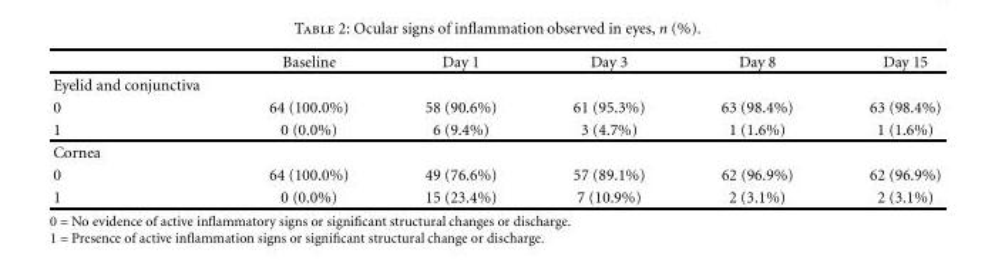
<table><thead><tr><td></td><td>Baseline</td><td>Day 1</td><td>Day 3</td><td>Day 8</td><td>Day 15</td></tr></thead><tbody><tr><td colspan="6">Eyelid and conjunctiva</td></tr><tr><td>0</td><td>64 (100.0%)</td><td>58 (90.6%)</td><td>61 (95.3%)</td><td>63 (98.4%)</td><td>63 (98.4%)</td></tr><tr><td>1</td><td>0 (0.0%)</td><td>6 (9.4%)</td><td>3 (4.7%)</td><td>1 (1.6%)</td><td>1 (1.6%)</td></tr><tr><td colspan="6">Cornea</td></tr><tr><td>0</td><td>64 (100.0%)</td><td>49 (76.6%)</td><td>57 (89.1%)</td><td>62 (96.9%)</td><td>62 (96.9%)</td></tr><tr><td>1</td><td>0 (0.0%)</td><td>15 (23.4%)</td><td>7 (10.9%)</td><td>2 (3.1%)</td><td>2 (3.1%)</td></tr></tbody></table>